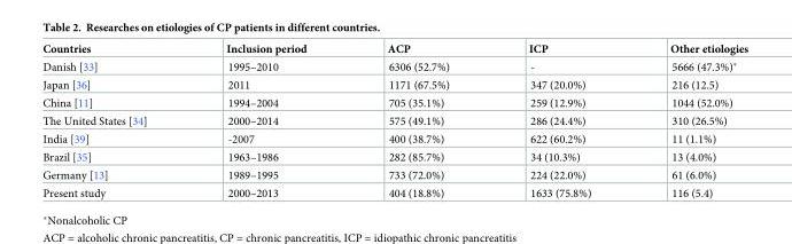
<table><thead><tr><td>Countries</td><td>Inclusion period</td><td>ACP</td><td>ICP</td><td>Other etiologies</td></tr></thead><tbody><tr><td>Danish [33]</td><td>1995–2010</td><td>6306 (52.7%)</td><td>-</td><td>5666 (47.3%)*</td></tr><tr><td>Japan [36]</td><td>2011</td><td>1171 (67.5%)</td><td>347 (20.0%)</td><td>216 (12.5)</td></tr><tr><td>China [11]</td><td>1994–2004</td><td>705 (35.1%)</td><td>259 (12.9%)</td><td>1044 (52.0%)</td></tr><tr><td>The United States [34]</td><td>2000–2014</td><td>575 (49.1%)</td><td>286 (24.4%)</td><td>310 (26.5%)</td></tr><tr><td>India [39]</td><td>-2007</td><td>400 (38.7%)</td><td>622 (60.2%)</td><td>11 (1.1%)</td></tr><tr><td>Brazil [35]</td><td>1963–1986</td><td>282 (85.7%)</td><td>34 (10.3%)</td><td>13 (4.0%)</td></tr><tr><td>Germany [13]</td><td>1989–1995</td><td>733 (72.0%)</td><td>224 (22.0%)</td><td>61 (6.0%)</td></tr><tr><td>Present study</td><td>2000–2013</td><td>404 (18.8%)</td><td>1633 (75.8%)</td><td>116 (5.4)</td></tr></tbody></table>